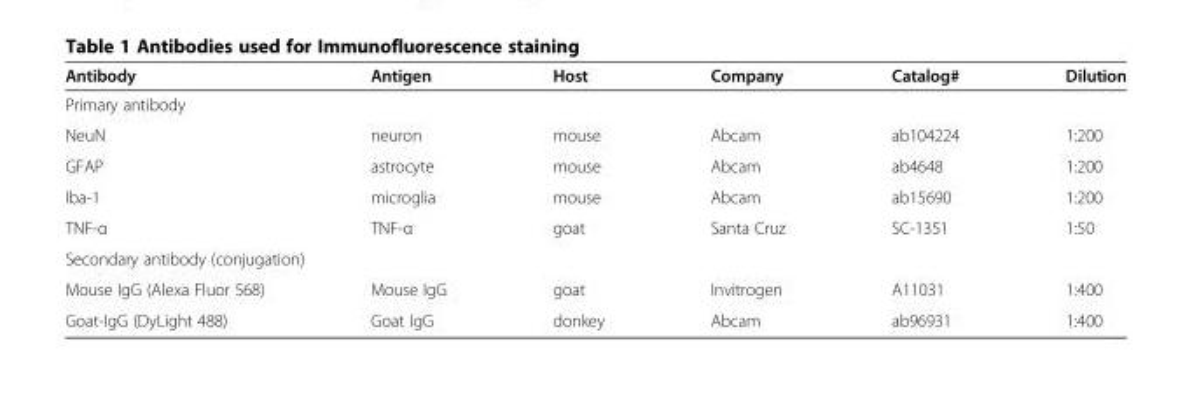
<table><thead><tr><td>Antibody</td><td>Antigen</td><td>Host</td><td>Company</td><td>Catalog#</td><td>Dilution</td></tr></thead><tbody><tr><td colspan="6">Primary antibody</td></tr><tr><td>NeuN</td><td>neuron</td><td>mouse</td><td>Abcam</td><td>ab104224</td><td>1:200</td></tr><tr><td>GFAP</td><td>astrocyte</td><td>mouse</td><td>Abcam</td><td>ab4648</td><td>1:200</td></tr><tr><td>Iba-1</td><td>microglia</td><td>mouse</td><td>Abcam</td><td>ab15690</td><td>1:200</td></tr><tr><td>TNF-α</td><td>TNF-α</td><td>goat</td><td>Santa Cruz</td><td>SC-1351</td><td>1:50</td></tr><tr><td colspan="6">Secondary antibody (conjugation)</td></tr><tr><td>Mouse IgG (Alexa Fluor 568)</td><td>Mouse IgG</td><td>goat</td><td>Invitrogen</td><td>A11031</td><td>1:400</td></tr><tr><td>Goat-IgG (DyLight 488)</td><td>Goat IgG</td><td>donkey</td><td>Abcam</td><td>ab96931</td><td>1:400</td></tr></tbody></table>